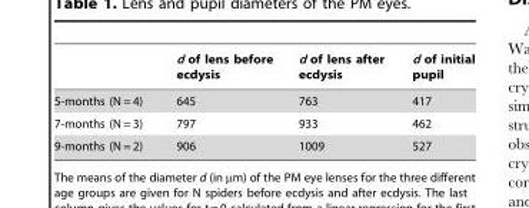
<table><thead><tr><td></td><td>d of lens before ecdysis</td><td>d of lens after ecdysis</td><td>d of initial pupil</td></tr></thead><tbody><tr><td>5-months (N = 4)</td><td>645</td><td>763</td><td>417</td></tr><tr><td>7-months (N = 3)</td><td>797</td><td>933</td><td>462</td></tr><tr><td>9-months (N = 2)</td><td>906</td><td>1009</td><td>527</td></tr></tbody></table>